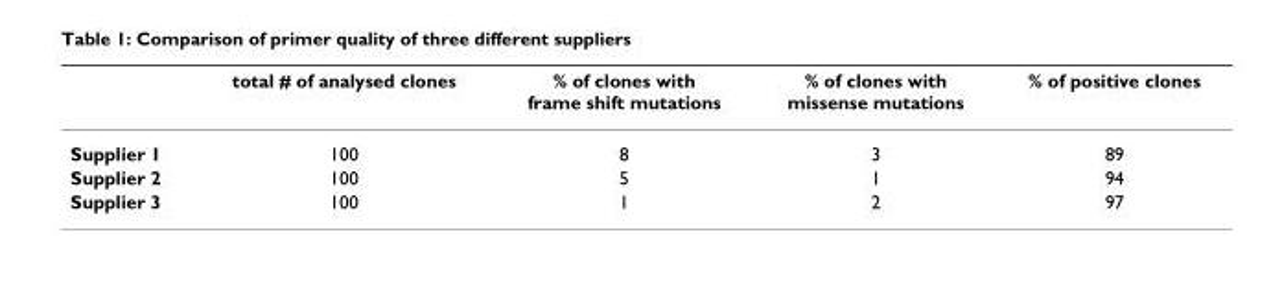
<table><thead><tr><td></td><td>total # of analysed clones</td><td>% of clones with frame shift mutations</td><td>% of clones with missense mutations</td><td>% of positive clones</td></tr></thead><tbody><tr><td>Supplier 1</td><td>100</td><td>8</td><td>3</td><td>89</td></tr><tr><td>Supplier 2</td><td>100</td><td>5</td><td>1</td><td>94</td></tr><tr><td>Supplier 3</td><td>100</td><td>1</td><td>2</td><td>97</td></tr></tbody></table>